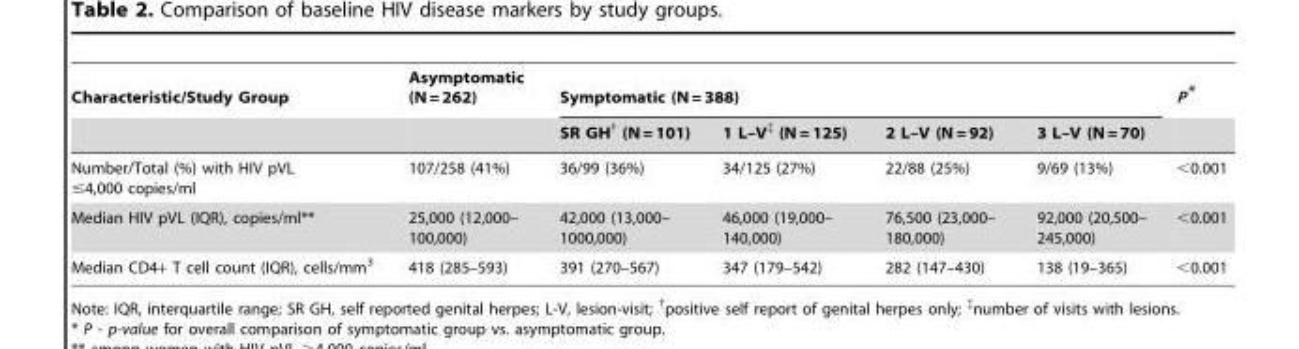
<table><thead><tr><td rowspan="2">Characteristic/Study Group</td><td rowspan="2">Asymptomatic (N = 262)</td><td colspan="4">Symptomatic (N = 388)</td><td rowspan="2">P*</td></tr><tr><td>SR GH<sup>†</sup> (N = 101)</td><td>1 L–V<sup>‡</sup> (N = 125)</td><td>2 L–V (N = 92)</td><td>3 L–V (N = 70)</td></tr></thead><tbody><tr><td>Number/Total (%) with HIV pVL ≤4,000 copies/ml</td><td>107/258 (41%)</td><td>36/99 (36%)</td><td>34/125 (27%)</td><td>22/88 (25%)</td><td>9/69 (13%)</td><td>&lt;0.001</td></tr><tr><td>Median HIV pVL (IQR), copies/ml**</td><td>25,000 (12,000– 100,000)</td><td>42,000 (13,000– 1000,000)</td><td>46,000 (19,000– 140,000)</td><td>76,500 (23,000– 180,000)</td><td>92,000 (20,500– 245,000)</td><td>&lt;0.001</td></tr><tr><td>Median CD4+ T cell count (IQR), cells/mm<sup>3</sup></td><td>418 (285–593)</td><td>391 (270–567)</td><td>347 (179–542)</td><td>282 (147–430)</td><td>138 (19–365)</td><td>&lt;0.001</td></tr></tbody></table>